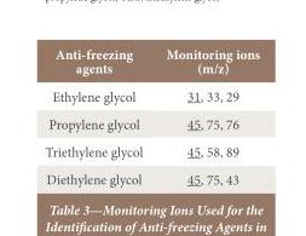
<table><thead><tr><td>Anti-freezing agents</td><td>Monitoring ions (m/z)</td></tr></thead><tbody><tr><td>Ethylene glycol</td><td>31, 33, 29</td></tr><tr><td>Propylene glycol</td><td>45, 75, 76</td></tr><tr><td>Triethylene glycol</td><td>45, 58, 89</td></tr><tr><td>Diethylene glycol</td><td>45, 75, 43</td></tr></tbody></table>